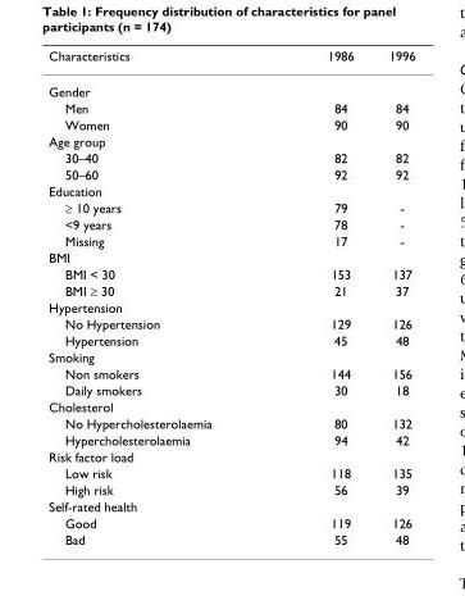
<table><thead><tr><td>Characteristics</td><td>1986</td><td>1996</td></tr></thead><tbody><tr><td colspan="3">Gender</td></tr><tr><td>Men</td><td>84</td><td>84</td></tr><tr><td>Women</td><td>90</td><td>90</td></tr><tr><td colspan="3">Age group</td></tr><tr><td>30–40</td><td>82</td><td>82</td></tr><tr><td>50–60</td><td>92</td><td>92</td></tr><tr><td colspan="3">Education</td></tr><tr><td>≥ 10 years</td><td>79</td><td>-</td></tr><tr><td>&lt;9 years</td><td>78</td><td>-</td></tr><tr><td>Missing</td><td>17</td><td>-</td></tr><tr><td colspan="3">BMI</td></tr><tr><td>BMI &lt; 30</td><td>153</td><td>137</td></tr><tr><td>BMI ≥ 30</td><td>21</td><td>37</td></tr><tr><td colspan="3">Hypertension</td></tr><tr><td>No Hypertension</td><td>129</td><td>126</td></tr><tr><td>Hypertension</td><td>45</td><td>48</td></tr><tr><td colspan="3">Smoking</td></tr><tr><td>Non smokers</td><td>144</td><td>156</td></tr><tr><td>Daily smokers</td><td>30</td><td>18</td></tr><tr><td colspan="3">Cholesterol</td></tr><tr><td>No Hypercholesterolaemia</td><td>80</td><td>132</td></tr><tr><td>Hypercholesterolaemia</td><td>94</td><td>42</td></tr><tr><td colspan="3">Risk factor load</td></tr><tr><td>Low risk</td><td>118</td><td>135</td></tr><tr><td>High risk</td><td>56</td><td>39</td></tr><tr><td colspan="3">Self-rated health</td></tr><tr><td>Good</td><td>119</td><td>126</td></tr><tr><td>Bad</td><td>55</td><td>48</td></tr></tbody></table>